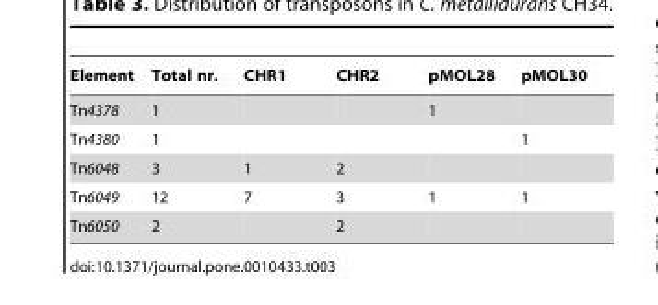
<table><thead><tr><td>Element</td><td>Total nr.</td><td>CHR1</td><td>CHR2</td><td>pMOL28</td><td>pMOL30</td></tr></thead><tbody><tr><td>Tn4378</td><td>1</td><td></td><td></td><td>1</td><td></td></tr><tr><td>Tn4380</td><td>1</td><td></td><td></td><td></td><td>1</td></tr><tr><td>Tn6048</td><td>3</td><td>1</td><td>2</td><td></td><td></td></tr><tr><td>Tn6049</td><td>12</td><td>7</td><td>3</td><td>1</td><td>1</td></tr><tr><td>Tn6050</td><td>2</td><td></td><td>2</td><td></td><td></td></tr></tbody></table>